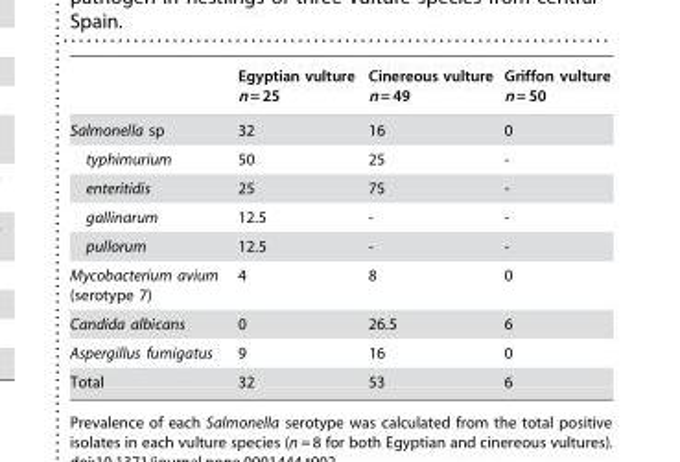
<table><thead><tr><td></td><td>Egyptian vulture n = 25</td><td>Cinereous vulture n = 49</td><td>Griffon vulture n = 50</td></tr></thead><tbody><tr><td>Salmonella sp</td><td>32</td><td>16</td><td>0</td></tr><tr><td>typhimurium</td><td>50</td><td>25</td><td>-</td></tr><tr><td>enteritidis</td><td>25</td><td>75</td><td>-</td></tr><tr><td>gallinarum</td><td>12.5</td><td>-</td><td>-</td></tr><tr><td>pullorum</td><td>12.5</td><td>-</td><td>-</td></tr><tr><td>Mycobacterium avium (serotype 7)</td><td>4</td><td>8</td><td>0</td></tr><tr><td>Candida albicans</td><td>0</td><td>26.5</td><td>6</td></tr><tr><td>Aspergillus fumigatus</td><td>9</td><td>16</td><td>0</td></tr><tr><td>Total</td><td>32</td><td>53</td><td>6</td></tr></tbody></table>